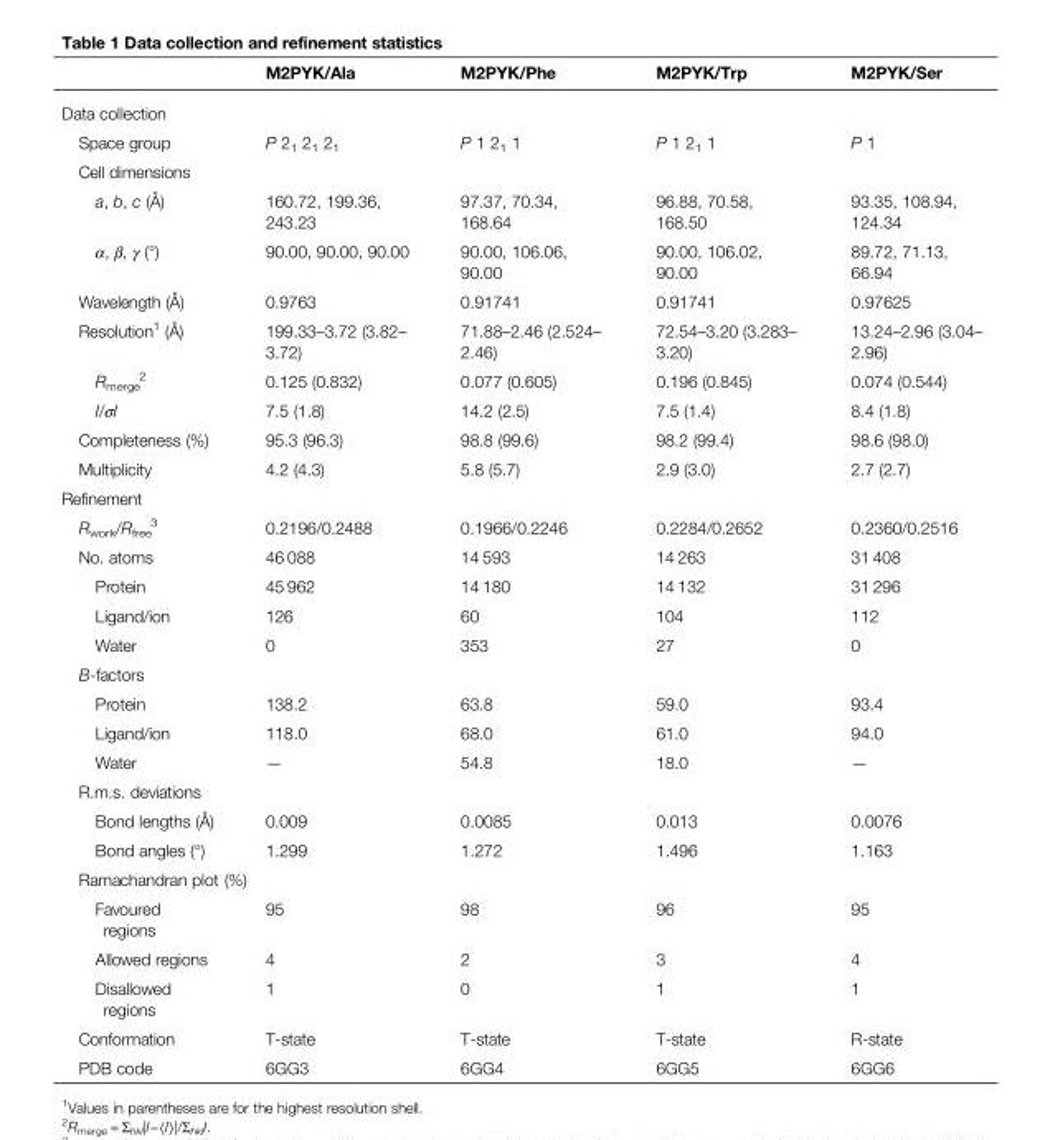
<table><thead><tr><td></td><td>M2PYK/Ala</td><td>M2PYK/Phe</td><td>M2PYK/Trp</td><td>M2PYK/Ser</td></tr></thead><tbody><tr><td colspan="5">Data collection</td></tr><tr><td>Space group</td><td>P 2<sub>1</sub> 2<sub>1</sub> 2<sub>1</sub></td><td>P 1 2<sub>1</sub> 1</td><td>P 1 2<sub>1</sub> 1</td><td>P 1</td></tr><tr><td colspan="5">Cell dimensions</td></tr><tr><td>a, b, c (Å)</td><td>160.72, 199.36, 243.23</td><td>97.37, 70.34, 168.64</td><td>96.88, 70.58, 168.50</td><td>93.35, 108.94, 124.34</td></tr><tr><td>α, β, γ (°)</td><td>90.00, 90.00, 90.00</td><td>90.00, 106.06, 90.00</td><td>90.00, 106.02, 90.00</td><td>89.72, 71.13, 66.94</td></tr><tr><td>Wavelength (Å)</td><td>0.9763</td><td>0.91741</td><td>0.91741</td><td>0.97625</td></tr><tr><td>Resolution<sup>1</sup> (Å)</td><td>199.33–3.72 (3.82– 3.72)</td><td>71.88–2.46 (2.524– 2.46)</td><td>72.54–3.20 (3.283– 3.20)</td><td>13.24–2.96 (3.04– 2.96)</td></tr><tr><td>R<sub>merge</sub> <sup>2</sup></td><td>0.125 (0.832)</td><td>0.077 (0.605)</td><td>0.196 (0.845)</td><td>0.074 (0.544)</td></tr><tr><td>I/σI</td><td>7.5 (1.8)</td><td>14.2 (2.5)</td><td>7.5 (1.4)</td><td>8.4 (1.8)</td></tr><tr><td>Completeness (%)</td><td>95.3 (96.3)</td><td>98.8 (99.6)</td><td>98.2 (99.4)</td><td>98.6 (98.0)</td></tr><tr><td>Multiplicity</td><td>4.2 (4.3)</td><td>5.8 (5.7)</td><td>2.9 (3.0)</td><td>2.7 (2.7)</td></tr><tr><td colspan="5">Refinement</td></tr><tr><td>R<sub>work</sub>/R<sub>free</sub> <sup>3</sup></td><td>0.2196/0.2488</td><td>0.1966/0.2246</td><td>0.2284/0.2652</td><td>0.2360/0.2516</td></tr><tr><td>No. atoms</td><td>46 088</td><td>14 593</td><td>14 263</td><td>31 408</td></tr><tr><td>Protein</td><td>45 962</td><td>14 180</td><td>14 132</td><td>31 296</td></tr><tr><td>Ligand/ion</td><td>126</td><td>60</td><td>104</td><td>112</td></tr><tr><td>Water</td><td>0</td><td>353</td><td>27</td><td>0</td></tr><tr><td colspan="5">B-factors</td></tr><tr><td>Protein</td><td>138.2</td><td>63.8</td><td>59.0</td><td>93.4</td></tr><tr><td>Ligand/ion</td><td>118.0</td><td>68.0</td><td>61.0</td><td>94.0</td></tr><tr><td>Water</td><td>—</td><td>54.8</td><td>18.0</td><td>—</td></tr><tr><td colspan="5">R.m.s. deviations</td></tr><tr><td>Bond lengths (Å)</td><td>0.009</td><td>0.0085</td><td>0.013</td><td>0.0076</td></tr><tr><td>Bond angles (°)</td><td>1.299</td><td>1.272</td><td>1.496</td><td>1.163</td></tr><tr><td colspan="5">Ramachandran plot (%)</td></tr><tr><td>Favoured regions</td><td>95</td><td>98</td><td>96</td><td>95</td></tr><tr><td>Allowed regions</td><td>4</td><td>2</td><td>3</td><td>4</td></tr><tr><td>Disallowed regions</td><td>1</td><td>0</td><td>1</td><td>1</td></tr><tr><td>Conformation</td><td>T-state</td><td>T-state</td><td>T-state</td><td>R-state</td></tr><tr><td>PDB code</td><td>6GG3</td><td>6GG4</td><td>6GG5</td><td>6GG6</td></tr></tbody></table>